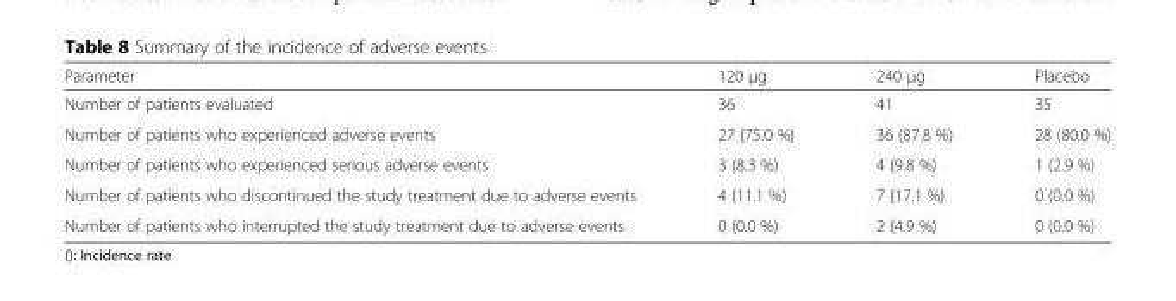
<table><thead><tr><td>Parameter</td><td>120 μg</td><td>240 μg</td><td>Placebo</td></tr></thead><tbody><tr><td>Number of patients evaluated</td><td>36</td><td>41</td><td>35</td></tr><tr><td>Number of patients who experienced adverse events</td><td>27 (75.0 %)</td><td>36 (87.8 %)</td><td>28 (80.0 %)</td></tr><tr><td>Number of patients who experienced serious adverse events</td><td>3 (8.3 %)</td><td>4 (9.8 %)</td><td>1 (2.9 %)</td></tr><tr><td>Number of patients who discontinued the study treatment due to adverse events</td><td>4 (11.1 %)</td><td>7 (17.1 %)</td><td>0 (0.0 %)</td></tr><tr><td>Number of patients who interrupted the study treatment due to adverse events</td><td>0 (0.0 %)</td><td>2 (4.9 %)</td><td>0 (0.0 %)</td></tr></tbody></table>